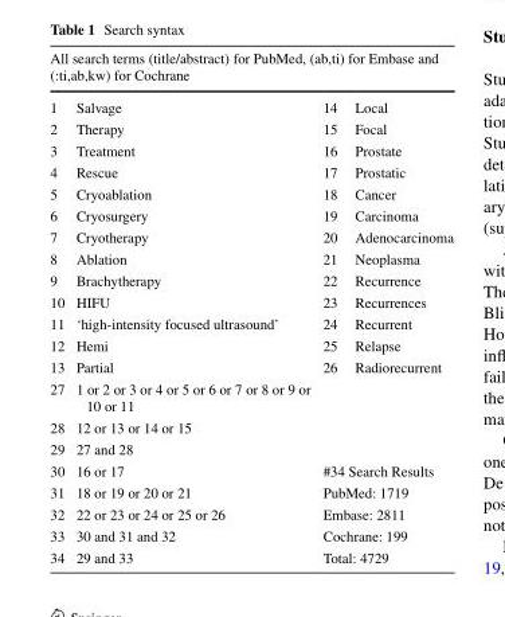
<table><thead><tr><td colspan="4">All search terms (title/abstract) for PubMed, (ab,ti) for Embase and (:ti,ab,kw) for Cochrane</td></tr><tr><td>1</td><td>Salvage</td><td>14</td><td>Local</td></tr></thead><tbody><tr><td>2</td><td>Therapy</td><td>15</td><td>Focal</td></tr><tr><td>3</td><td>Treatment</td><td>16</td><td>Prostate</td></tr><tr><td>4</td><td>Rescue</td><td>17</td><td>Prostatic</td></tr><tr><td>5</td><td>Cryoablation</td><td>18</td><td>Cancer</td></tr><tr><td>6</td><td>Cryosurgery</td><td>19</td><td>Carcinoma</td></tr><tr><td>7</td><td>Cryotherapy</td><td>20</td><td>Adenocarcinoma</td></tr><tr><td>8</td><td>Ablation</td><td>21</td><td>Neoplasma</td></tr><tr><td>9</td><td>Brachytherapy</td><td>22</td><td>Recurrence</td></tr><tr><td>10</td><td>HIFU</td><td>23</td><td>Recurrences</td></tr><tr><td>11</td><td>‘high-intensity focused ultrasound’</td><td>24</td><td>Recurrent</td></tr><tr><td>12</td><td>Hemi</td><td>25</td><td>Relapse</td></tr><tr><td>13</td><td>Partial</td><td>26</td><td>Radiorecurrent</td></tr><tr><td>27</td><td>1 or 2 or 3 or 4 or 5 or 6 or 7 or 8 or 9 or 10 or 11</td><td></td><td></td></tr><tr><td>28</td><td>12 or 13 or 14 or 15</td><td></td><td></td></tr><tr><td>29</td><td>27 and 28</td><td></td><td></td></tr><tr><td>30</td><td>16 or 17</td><td colspan="2">#34 Search Results</td></tr><tr><td>31</td><td>18 or 19 or 20 or 21</td><td colspan="2">PubMed: 1719</td></tr><tr><td>32</td><td>22 or 23 or 24 or 25 or 26</td><td colspan="2">Embase: 2811</td></tr><tr><td>33</td><td>30 and 31 and 32</td><td colspan="2">Cochrane: 199</td></tr><tr><td>34</td><td>29 and 33</td><td colspan="2">Total: 4729</td></tr></tbody></table>